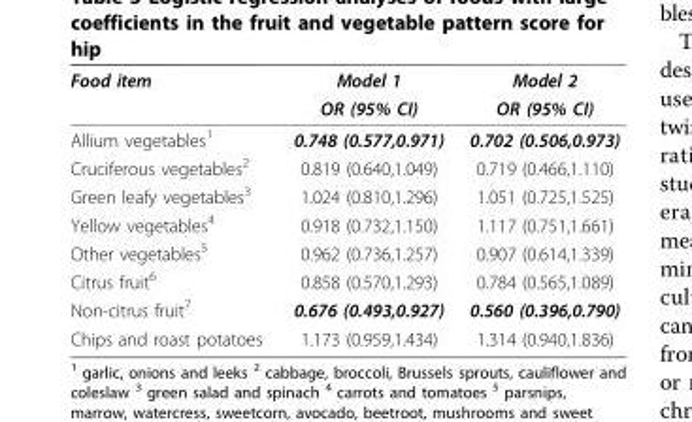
<table><thead><tr><td rowspan="2">Food item</td><td rowspan="2">Model 1 OR (95% CI)</td><td rowspan="2">Model 2 OR (95% CI)</td></tr><tr></tr></thead><tbody><tr><td>Allium vegetables<sup>1</sup></td><td>0.748 (0.577,0.971)</td><td>0.702 (0.506,0.973)</td></tr><tr><td>Cruciferous vegetables<sup>2</sup></td><td>0.819 (0.640,1.049)</td><td>0.719 (0.466,1.110)</td></tr><tr><td>Green leafy vegetables<sup>3</sup></td><td>1.024 (0.810,1.296)</td><td>1.051 (0.725,1.525)</td></tr><tr><td>Yellow vegetables<sup>4</sup></td><td>0.918 (0.732,1.150)</td><td>1.117 (0.751,1.661)</td></tr><tr><td>Other vegetables<sup>5</sup></td><td>0.962 (0.736,1.257)</td><td>0.907 (0.614,1.339)</td></tr><tr><td>Citrus fruit<sup>6</sup></td><td>0.858 (0.570,1.293)</td><td>0.784 (0.565,1.089)</td></tr><tr><td>Non-citrus fruit<sup>7</sup></td><td>0.676 (0.493,0.927)</td><td>0.560 (0.396,0.790)</td></tr><tr><td>Chips and roast potatoes</td><td>1.173 (0.959,1.434)</td><td>1.314 (0.940,1.836)</td></tr></tbody></table>